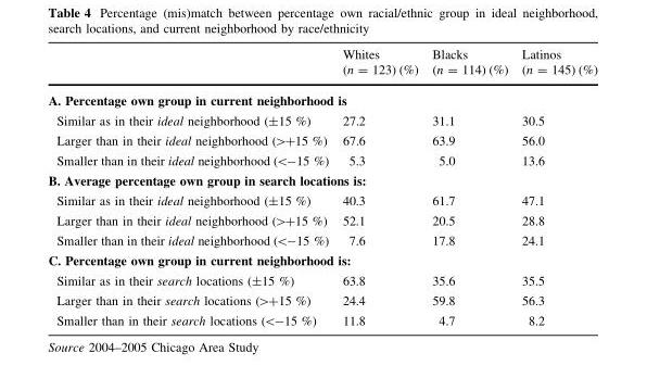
<table><thead><tr><td></td><td>Whites (n = 123) (%)</td><td>Blacks (n = 114) (%)</td><td>Latinos (n = 145) (%)</td></tr></thead><tbody><tr><td colspan="4">A. Percentage own group in current neighborhood is</td></tr><tr><td>Similar as in their ideal neighborhood (±15 %)</td><td>27.2</td><td>31.1</td><td>30.5</td></tr><tr><td>Larger than in their ideal neighborhood (&gt;+15 %)</td><td>67.6</td><td>63.9</td><td>56.0</td></tr><tr><td>Smaller than in their ideal neighborhood (&lt;-15 %)</td><td>5.3</td><td>5.0</td><td>13.6</td></tr><tr><td colspan="4">B. Average percentage own group in search locations is:</td></tr><tr><td>Similar as in their ideal neighborhood (±15 %)</td><td>40.3</td><td>61.7</td><td>47.1</td></tr><tr><td>Larger than in their ideal neighborhood (&gt;+15 %)</td><td>52.1</td><td>20.5</td><td>28.8</td></tr><tr><td>Smaller than in their ideal neighborhood (&lt;-15 %)</td><td>7.6</td><td>17.8</td><td>24.1</td></tr><tr><td colspan="4">C. Percentage own group in current neighborhood is:</td></tr><tr><td>Similar as in their search locations (±15 %)</td><td>63.8</td><td>35.6</td><td>35.5</td></tr><tr><td>Larger than in their search locations (&gt;+15 %)</td><td>24.4</td><td>59.8</td><td>56.3</td></tr><tr><td>Smaller than in their search locations (&lt;-15 %)</td><td>11.8</td><td>4.7</td><td>8.2</td></tr></tbody></table>